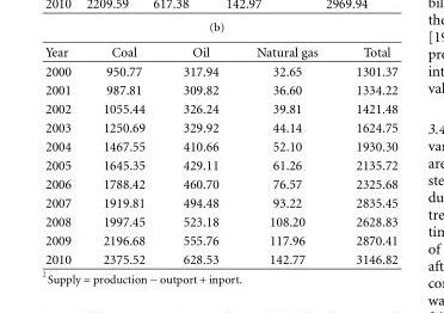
<table><thead><tr><td>Year</td><td>Coal</td><td>Oil</td><td>Natural gas</td><td>Total</td></tr></thead><tbody><tr><td>2000</td><td>950.77</td><td>317.94</td><td>32.65</td><td>1301.37</td></tr><tr><td>2001</td><td>987.81</td><td>309.82</td><td>36.60</td><td>1334.22</td></tr><tr><td>2002</td><td>1055.44</td><td>326.24</td><td>39.81</td><td>1421.48</td></tr><tr><td>2003</td><td>1250.69</td><td>329.92</td><td>44.14</td><td>1624.75</td></tr><tr><td>2004</td><td>1467.55</td><td>410.66</td><td>52.10</td><td>1930.30</td></tr><tr><td>2005</td><td>1645.35</td><td>429.11</td><td>61.26</td><td>2135.72</td></tr><tr><td>2006</td><td>1788.42</td><td>460.70</td><td>76.57</td><td>2325.68</td></tr><tr><td>2007</td><td>1919.81</td><td>494.48</td><td>93.22</td><td>2835.45</td></tr><tr><td>2008</td><td>1997.45</td><td>523.18</td><td>108.20</td><td>2628.83</td></tr><tr><td>2009</td><td>2196.68</td><td>555.76</td><td>117.96</td><td>2870.41</td></tr><tr><td>2010</td><td>2375.52</td><td>628.53</td><td>142.77</td><td>3146.82</td></tr></tbody></table>